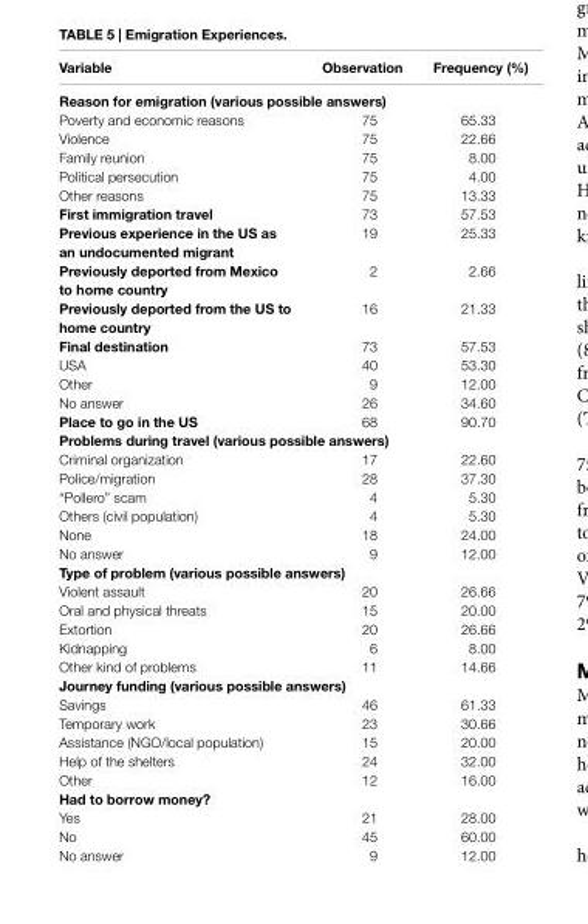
<table><thead><tr><td>Variable</td><td>Observation</td><td>Frequency (%)</td></tr></thead><tbody><tr><td colspan="3">reason for emigration (various possible answers)</td></tr><tr><td>Poverty and economic reasons</td><td>75</td><td>65.33</td></tr><tr><td>Violence</td><td>75</td><td>22.66</td></tr><tr><td>Family reunion</td><td>75</td><td>8.00</td></tr><tr><td>Political persecution</td><td>75</td><td>4.00</td></tr><tr><td>Other reasons</td><td>75</td><td>13.33</td></tr><tr><td>First immigration travel</td><td>73</td><td>57.53</td></tr><tr><td>Previous experience in the Us as an undocumented migrant</td><td>19</td><td>25.33</td></tr><tr><td>Previously deported from Mexico to home country</td><td>2</td><td>2.66</td></tr><tr><td>Previously deported from the Us to home country</td><td>16</td><td>21.33</td></tr><tr><td>Final destination</td><td>73</td><td>57.53</td></tr><tr><td>USA</td><td>40</td><td>53.30</td></tr><tr><td>Other</td><td>9</td><td>12.00</td></tr><tr><td>No answer</td><td>26</td><td>34.60</td></tr><tr><td>Place to go in the Us</td><td>68</td><td>90.70</td></tr><tr><td colspan="3">Problems during travel (various possible answers)</td></tr><tr><td>Criminal organization</td><td>17</td><td>22.60</td></tr><tr><td>Police/migration</td><td>28</td><td>37.30</td></tr><tr><td>“Pollero” scam</td><td>4</td><td>5.30</td></tr><tr><td>Others (civil population)</td><td>4</td><td>5.30</td></tr><tr><td>None</td><td>18</td><td>24.00</td></tr><tr><td>No answer</td><td>9</td><td>12.00</td></tr><tr><td colspan="3">Type of problem (various possible answers)</td></tr><tr><td>Violent assault</td><td>20</td><td>26.66</td></tr><tr><td>Oral and physical threats</td><td>15</td><td>20.00</td></tr><tr><td>Extortion</td><td>20</td><td>26.66</td></tr><tr><td>Kidnapping</td><td>6</td><td>8.00</td></tr><tr><td>Other kind of problems</td><td>11</td><td>14.66</td></tr><tr><td colspan="3">Journey funding (various possible answers)</td></tr><tr><td>Savings</td><td>46</td><td>61.33</td></tr><tr><td>Temporary work</td><td>23</td><td>30.66</td></tr><tr><td>Assistance (NGO/local population)</td><td>15</td><td>20.00</td></tr><tr><td>Help of the shelters</td><td>24</td><td>32.00</td></tr><tr><td>Other</td><td>12</td><td>16.00</td></tr><tr><td colspan="3">had to borrow money?</td></tr><tr><td>Yes</td><td>21</td><td>28.00</td></tr><tr><td>No</td><td>45</td><td>60.00</td></tr><tr><td>No answer</td><td>9</td><td>12.00</td></tr></tbody></table>